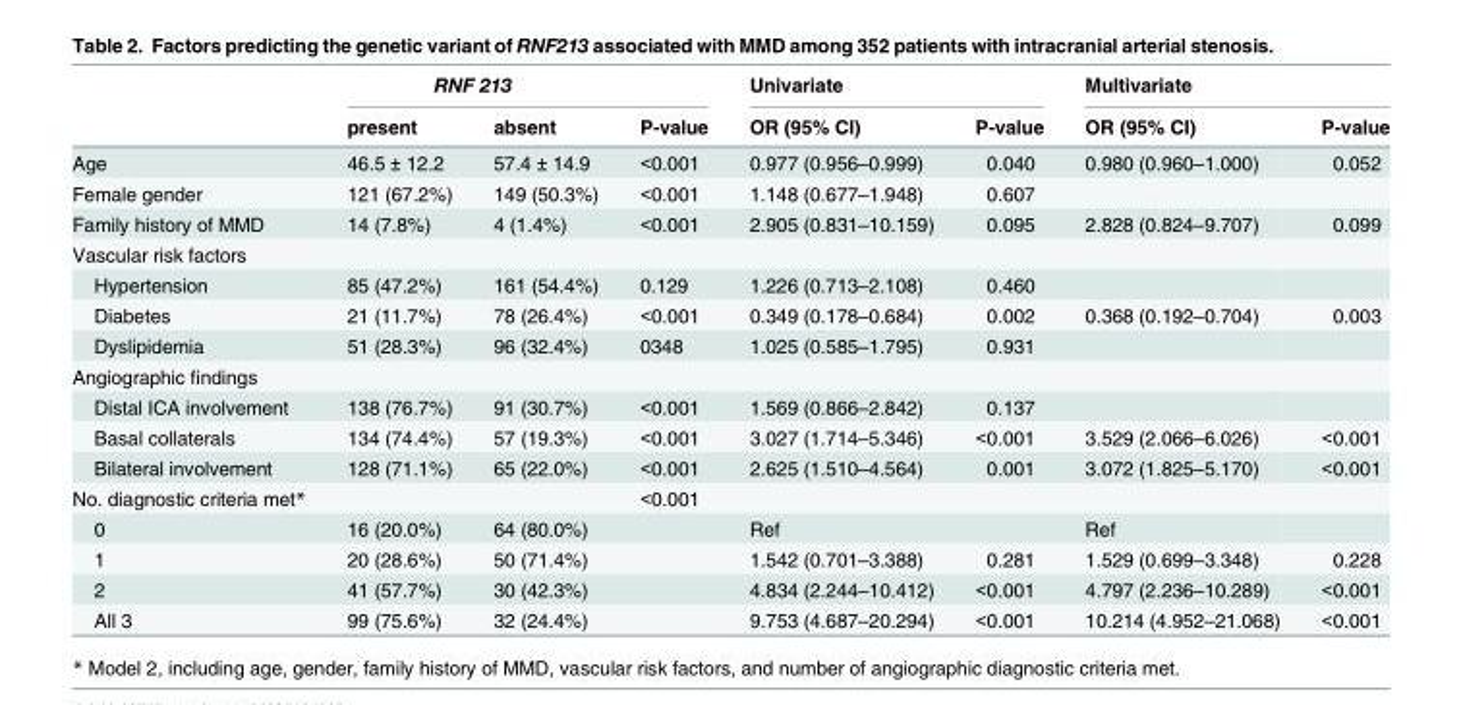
<table><thead><tr><td rowspan="2"></td><td colspan="2">RNF 213</td><td rowspan="2">P-value</td><td rowspan="2">Univariate OR (95% CI)</td><td rowspan="2">P-value</td><td rowspan="2">Multivariate OR (95% CI)</td><td rowspan="2">P-value</td></tr><tr><td>present</td><td>absent</td></tr></thead><tbody><tr><td>Age</td><td>46.5 ± 12.2</td><td>57.4 ± 14.9</td><td>&lt;0.001</td><td>0.977 (0.956–0.999)</td><td>0.040</td><td>0.980 (0.960–1.000)</td><td>0.052</td></tr><tr><td>Female gender</td><td>121 (67.2%)</td><td>149 (50.3%)</td><td>&lt;0.001</td><td>1.148 (0.677–1.948)</td><td>0.607</td><td></td><td></td></tr><tr><td>Family history of MMD</td><td>14 (7.8%)</td><td>4 (1.4%)</td><td>&lt;0.001</td><td>2.905 (0.831–10.159)</td><td>0.095</td><td>2.828 (0.824–9.707)</td><td>0.099</td></tr><tr><td colspan="8">Vascular risk factors</td></tr><tr><td>Hypertension</td><td>85 (47.2%)</td><td>161 (54.4%)</td><td>0.129</td><td>1.226 (0.713–2.108)</td><td>0.460</td><td></td><td></td></tr><tr><td>Diabetes</td><td>21 (11.7%)</td><td>78 (26.4%)</td><td>&lt;0.001</td><td>0.349 (0.178–0.684)</td><td>0.002</td><td>0.368 (0.192–0.704)</td><td>0.003</td></tr><tr><td>Dyslipidemia</td><td>51 (28.3%)</td><td>96 (32.4%)</td><td>0348</td><td>1.025 (0.585–1.795)</td><td>0.931</td><td></td><td></td></tr><tr><td colspan="8">Angiographic findings</td></tr><tr><td>Distal ICA involvement</td><td>138 (76.7%)</td><td>91 (30.7%)</td><td>&lt;0.001</td><td>1.569 (0.866–2.842)</td><td>0.137</td><td></td><td></td></tr><tr><td>Basal collaterals</td><td>134 (74.4%)</td><td>57 (19.3%)</td><td>&lt;0.001</td><td>3.027 (1.714–5.346)</td><td>&lt;0.001</td><td>3.529 (2.066–6.026)</td><td>&lt;0.001</td></tr><tr><td>Bilateral involvement</td><td>128 (71.1%)</td><td>65 (22.0%)</td><td>&lt;0.001</td><td>2.625 (1.510–4.564)</td><td>0.001</td><td>3.072 (1.825–5.170)</td><td>&lt;0.001</td></tr><tr><td>No. diagnostic criteria met*</td><td></td><td></td><td>&lt;0.001</td><td></td><td></td><td></td><td></td></tr><tr><td>0</td><td>16 (20.0%)</td><td>64 (80.0%)</td><td></td><td>Ref</td><td></td><td>Ref</td><td></td></tr><tr><td>1</td><td>20 (28.6%)</td><td>50 (71.4%)</td><td></td><td>1.542 (0.701–3.388)</td><td>0.281</td><td>1.529 (0.699–3.348)</td><td>0.228</td></tr><tr><td>2</td><td>41 (57.7%)</td><td>30 (42.3%)</td><td></td><td>4.834 (2.244–10.412)</td><td>&lt;0.001</td><td>4.797 (2.236–10.289)</td><td>&lt;0.001</td></tr><tr><td>All 3</td><td>99 (75.6%)</td><td>32 (24.4%)</td><td></td><td>9.753 (4.687–20.294)</td><td>&lt;0.001</td><td>10.214 (4.952–21.068)</td><td>&lt;0.001</td></tr></tbody></table>